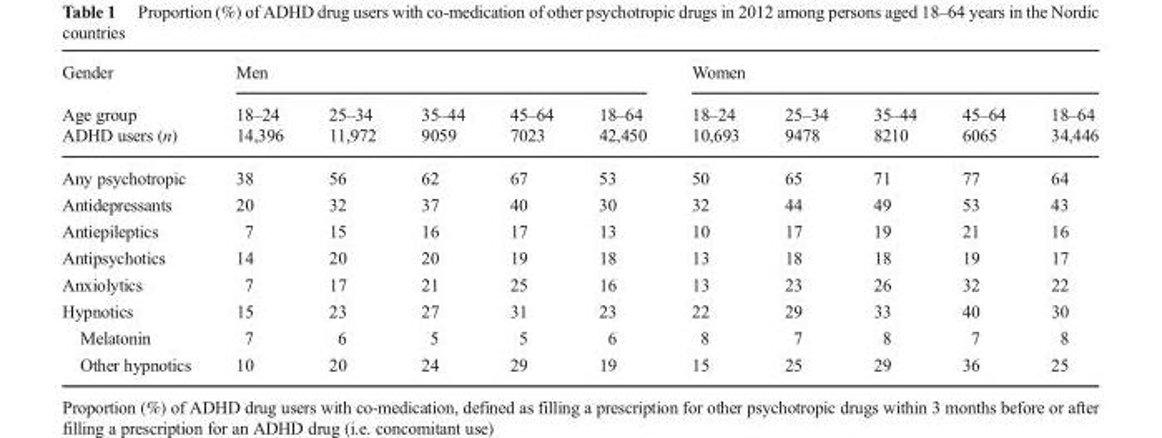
<table><thead><tr><td rowspan="3">Gender Age group ADHD users (n)</td><td colspan="5">Men</td><td colspan="5">Women</td></tr><tr><td rowspan="2">18–24 14,396</td><td rowspan="2">25–34 11,972</td><td rowspan="2">35–44 9059</td><td rowspan="2">45–64 7023</td><td rowspan="2">18–64 42,450</td><td rowspan="2">18–24 10,693</td><td rowspan="2">25–34 9478</td><td rowspan="2">35–44 8210</td><td rowspan="2">45–64 6065</td><td rowspan="2">18–64 34,446</td></tr><tr></tr></thead><tbody><tr><td>Any psychotropic</td><td>38</td><td>56</td><td>62</td><td>67</td><td>53</td><td>50</td><td>65</td><td>71</td><td>77</td><td>64</td></tr><tr><td>Antidepressants</td><td>20</td><td>32</td><td>37</td><td>40</td><td>30</td><td>32</td><td>44</td><td>49</td><td>53</td><td>43</td></tr><tr><td>Antiepileptics</td><td>7</td><td>15</td><td>16</td><td>17</td><td>13</td><td>10</td><td>17</td><td>19</td><td>21</td><td>16</td></tr><tr><td>Antipsychotics</td><td>14</td><td>20</td><td>20</td><td>19</td><td>18</td><td>13</td><td>18</td><td>18</td><td>19</td><td>17</td></tr><tr><td>Anxiolytics</td><td>7</td><td>17</td><td>21</td><td>25</td><td>16</td><td>13</td><td>23</td><td>26</td><td>32</td><td>22</td></tr><tr><td>Hypnotics</td><td>15</td><td>23</td><td>27</td><td>31</td><td>23</td><td>22</td><td>29</td><td>33</td><td>40</td><td>30</td></tr><tr><td>Melatonin</td><td>7</td><td>6</td><td>5</td><td>5</td><td>6</td><td>8</td><td>7</td><td>8</td><td>7</td><td>8</td></tr><tr><td>Other hypnotics</td><td>10</td><td>20</td><td>24</td><td>29</td><td>19</td><td>15</td><td>25</td><td>29</td><td>36</td><td>25</td></tr></tbody></table>